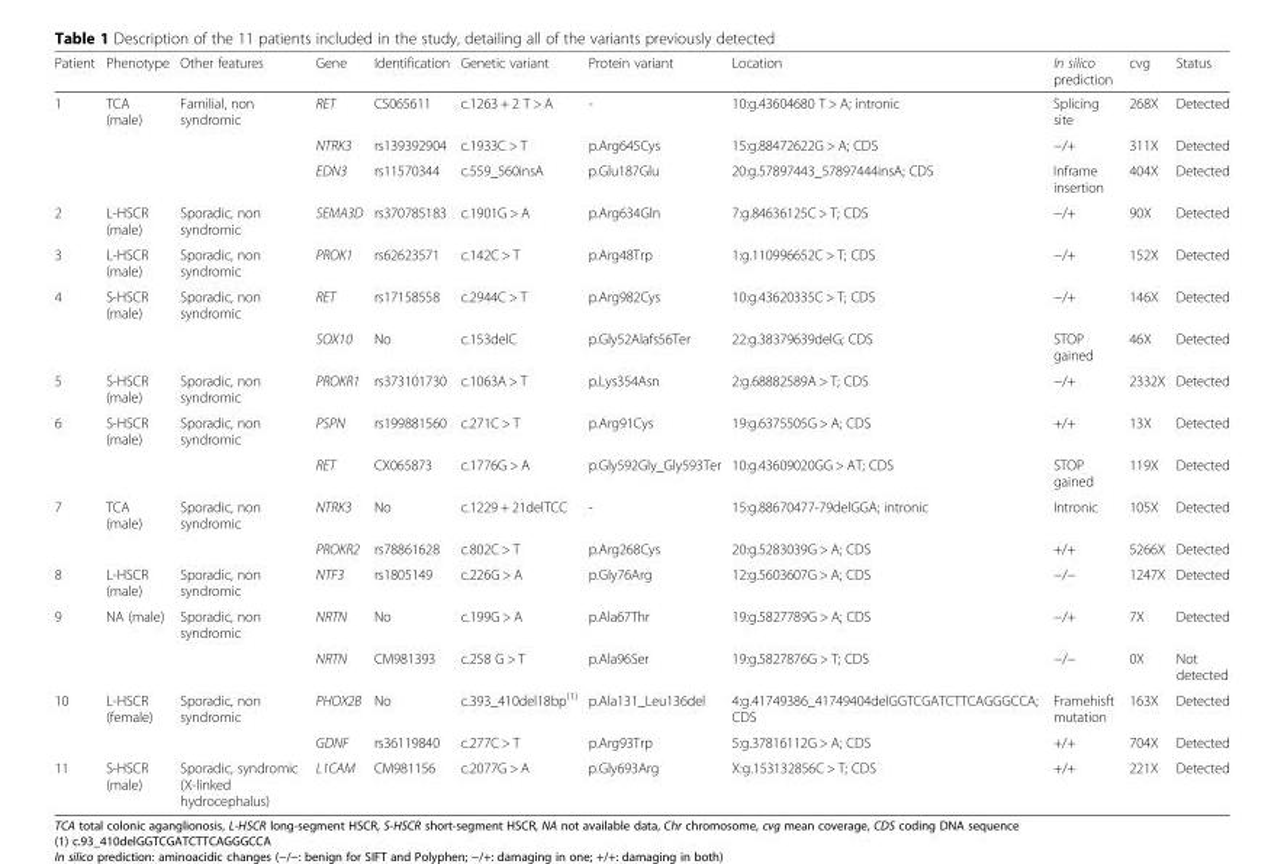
<table><thead><tr><td>Patient</td><td>Phenotype</td><td>Other features</td><td>Gene</td><td>Identification</td><td>Genetic variant</td><td>Protein variant</td><td>Location</td><td>In silico prediction</td><td>cvg</td><td>Status</td></tr></thead><tbody><tr><td rowspan="3">1</td><td>TCA (male)</td><td>Familial, non syndromic</td><td>RET</td><td>CS065611</td><td>c.1263 + 2 T &gt; A</td><td>-</td><td>10:g.43604680 T &gt; A; intronic</td><td>Splicing site</td><td>268X</td><td>Detected</td></tr><tr><td></td><td></td><td>NTRK3</td><td>rs139392904</td><td>c.1933C &gt; T</td><td>p.Arg645Cys</td><td>15:g.88472622G &gt; A; CDS</td><td>−/+</td><td>311X</td><td>Detected</td></tr><tr><td></td><td></td><td>EDN3</td><td>rs11570344</td><td>c.559_560insA</td><td>p.Glu187Glu</td><td>20:g.57897443_57897444insA; CDS</td><td>Inframe insertion</td><td>404X</td><td>Detected</td></tr><tr><td>2</td><td>L-HSCR (male)</td><td>Sporadic, non syndromic</td><td>SEMA3D</td><td>rs370785183</td><td>c.1901G &gt; A</td><td>p.Arg634Gln</td><td>7:g.84636125C &gt; T; CDS</td><td>−/+</td><td>90X</td><td>Detected</td></tr><tr><td>3</td><td>L-HSCR (male)</td><td>Sporadic, non syndromic</td><td>PROK1</td><td>rs62623571</td><td>c.142C &gt; T</td><td>p.Arg48Trp</td><td>1:g.110996652C &gt; T; CDS</td><td>−/+</td><td>152X</td><td>Detected</td></tr><tr><td rowspan="2">4</td><td>S-HSCR (male)</td><td>Sporadic, non syndromic</td><td>RET</td><td>rs17158558</td><td>c.2944C &gt; T</td><td>p.Arg982Cys</td><td>10:g.43620335C &gt; T; CDS</td><td>−/+</td><td>146X</td><td>Detected</td></tr><tr><td></td><td></td><td>SOX10</td><td>No</td><td>c.153delC</td><td>p.Gly52Alafs56Ter</td><td>22:g.38379639delG; CDS</td><td>STOP gained</td><td>46X</td><td>Detected</td></tr><tr><td>5</td><td>S-HSCR (male)</td><td>Sporadic, non syndromic</td><td>PROKR1</td><td>rs373101730</td><td>c.1063A &gt; T</td><td>p.Lys354Asn</td><td>2:g.68882589A &gt; T; CDS</td><td>−/+</td><td>2332X</td><td>Detected</td></tr><tr><td rowspan="2">6</td><td>S-HSCR (male)</td><td>Sporadic, non syndromic</td><td>PSPN</td><td>rs199881560</td><td>c.271C &gt; T</td><td>p.Arg91Cys</td><td>19:g.6375505G &gt; A; CDS</td><td>+/+</td><td>13X</td><td>Detected</td></tr><tr><td></td><td></td><td>RET</td><td>CX065873</td><td>c.1776G &gt; A</td><td>p.Gly592Gly_Gly593Ter</td><td>10:g.43609020GG &gt; AT; CDS</td><td>STOP gained</td><td>119X</td><td>Detected</td></tr><tr><td rowspan="2">7</td><td>TCA (male)</td><td>Sporadic, non syndromic</td><td>NTRK3</td><td>No</td><td>c.1229 + 21delTCC</td><td>-</td><td>15:g.88670477-79delGGA; intronic</td><td>Intronic</td><td>105X</td><td>Detected</td></tr><tr><td></td><td></td><td>PROKR2</td><td>rs78861628</td><td>c.802C &gt; T</td><td>p.Arg268Cys</td><td>20:g.5283039G &gt; A; CDS</td><td>+/+</td><td>5266X</td><td>Detected</td></tr><tr><td>8</td><td>L-HSCR (male)</td><td>Sporadic, non syndromic</td><td>NTF3</td><td>rs1805149</td><td>c.226G &gt; A</td><td>p.Gly76Arg</td><td>12:g.5603607G &gt; A; CDS</td><td>−/−</td><td>1247X</td><td>Detected</td></tr><tr><td rowspan="2">9</td><td>NA (male)</td><td>Sporadic, non syndromic</td><td>NRTN</td><td>No</td><td>c.199G &gt; A</td><td>p.Ala67Thr</td><td>19:g.5827789G &gt; A; CDS</td><td>−/+</td><td>7X</td><td>Detected</td></tr><tr><td></td><td></td><td>NRTN</td><td>CM981393</td><td>c.258 G &gt; T</td><td>p.Ala96Ser</td><td>19:g.5827876G &gt; T; CDS</td><td>−/−</td><td>0X</td><td>Not detected</td></tr><tr><td rowspan="2">10</td><td>L-HSCR (female)</td><td>Sporadic, non syndromic</td><td>PHOX2B</td><td>No</td><td>c.393_410del18bp<sup>(1)</sup></td><td>p.Ala131_Leu136del</td><td>4:g.41749386_41749404delGGTCGATCTTCAGGGCCA; CDS</td><td>Framehisft mutation</td><td>163X</td><td>Detected</td></tr><tr><td></td><td></td><td>GDNF</td><td>rs36119840</td><td>c.277C &gt; T</td><td>p.Arg93Trp</td><td>5:g.37816112G &gt; A; CDS</td><td>+/+</td><td>704X</td><td>Detected</td></tr><tr><td>11</td><td>S-HSCR (male)</td><td>Sporadic, syndromic (X-linked hydrocephalus)</td><td>L1CAM</td><td>CM981156</td><td>c.2077G &gt; A</td><td>p.Gly693Arg</td><td>X:g.153132856C &gt; T; CDS</td><td>+/+</td><td>221X</td><td>Detected</td></tr></tbody></table>